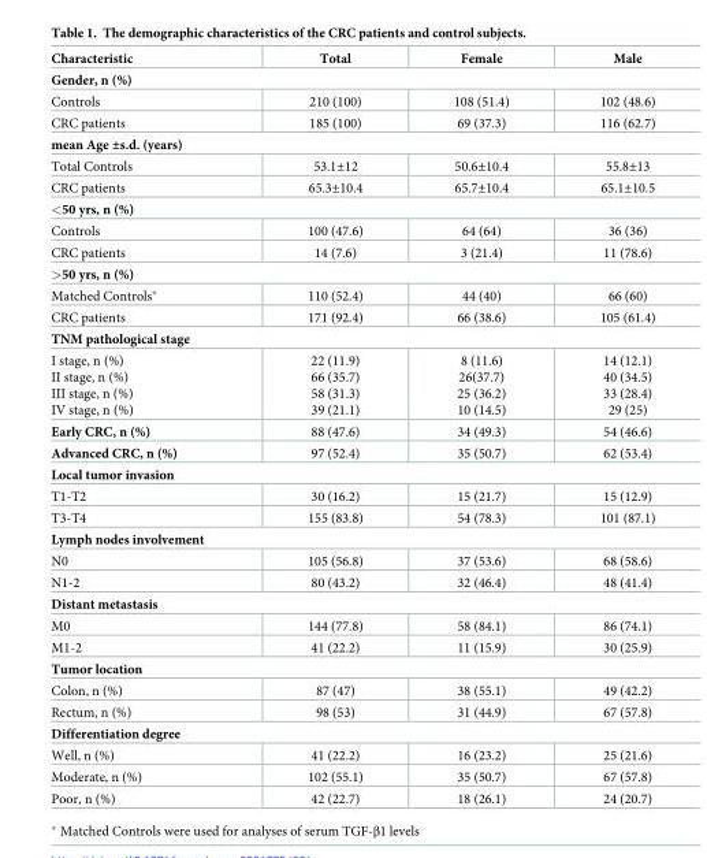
<table><thead><tr><td>Characteristic</td><td>Total</td><td>Female</td><td>Male</td></tr></thead><tbody><tr><td colspan="4">Gender, n (%)</td></tr><tr><td>Controls</td><td>210 (100)</td><td>108 (51.4)</td><td>102 (48.6)</td></tr><tr><td>CRC patients</td><td>185 (100)</td><td>69 (37.3)</td><td>116 (62.7)</td></tr><tr><td colspan="4">mean Age ±s.d. (years)</td></tr><tr><td>Total Controls</td><td>53.1±12</td><td>50.6±10.4</td><td>55.8±13</td></tr><tr><td>CRC patients</td><td>65.3±10.4</td><td>65.7±10.4</td><td>65.1±10.5</td></tr><tr><td colspan="4">&lt;50 yrs, n (%)</td></tr><tr><td>Controls</td><td>100 (47.6)</td><td>64 (64)</td><td>36 (36)</td></tr><tr><td>CRC patients</td><td>14 (7.6)</td><td>3 (21.4)</td><td>11 (78.6)</td></tr><tr><td colspan="4">&gt;50 yrs, n (%)</td></tr><tr><td>Matched Controls*</td><td>110 (52.4)</td><td>44 (40)</td><td>66 (60)</td></tr><tr><td>CRC patients</td><td>171 (92.4)</td><td>66 (38.6)</td><td>105 (61.4)</td></tr><tr><td colspan="4">TNM pathological stage</td></tr><tr><td>I stage, n (%) II stage, n (%) III stage, n (%) IV stage, n (%)</td><td>22 (11.9) 66 (35.7) 58 (31.3) 39 (21.1)</td><td>8 (11.6) 26(37.7) 25 (36.2) 10 (14.5)</td><td>14 (12.1) 40 (34.5) 33 (28.4) 29 (25)</td></tr><tr><td>Early CRC, n (%)</td><td>88 (47.6)</td><td>34 (49.3)</td><td>54 (46.6)</td></tr><tr><td>Advanced CRC, n (%)</td><td>97 (52.4)</td><td>35 (50.7)</td><td>62 (53.4)</td></tr><tr><td colspan="4">Local tumor invasion</td></tr><tr><td>T1-T2</td><td>30 (16.2)</td><td>15 (21.7)</td><td>15 (12.9)</td></tr><tr><td>T3-T4</td><td>155 (83.8)</td><td>54 (78.3)</td><td>101 (87.1)</td></tr><tr><td colspan="4">Lymph nodes involvement</td></tr><tr><td>N0</td><td>105 (56.8)</td><td>37 (53.6)</td><td>68 (58.6)</td></tr><tr><td>N1-2</td><td>80 (43.2)</td><td>32 (46.4)</td><td>48 (41.4)</td></tr><tr><td colspan="4">Distant metastasis</td></tr><tr><td>M0</td><td>144 (77.8)</td><td>58 (84.1)</td><td>86 (74.1)</td></tr><tr><td>M1-2</td><td>41 (22.2)</td><td>11 (15.9)</td><td>30 (25.9)</td></tr><tr><td colspan="4">Tumor location</td></tr><tr><td>Colon, n (%)</td><td>87 (47)</td><td>38 (55.1)</td><td>49 (42.2)</td></tr><tr><td>Rectum, n (%)</td><td>98 (53)</td><td>31 (44.9)</td><td>67 (57.8)</td></tr><tr><td colspan="4">Differentiation degree</td></tr><tr><td>Well, n (%)</td><td>41 (22.2)</td><td>16 (23.2)</td><td>25 (21.6)</td></tr><tr><td>Moderate, n (%)</td><td>102 (55.1)</td><td>35 (50.7)</td><td>67 (57.8)</td></tr><tr><td>Poor, n (%)</td><td>42 (22.7)</td><td>18 (26.1)</td><td>24 (20.7)</td></tr></tbody></table>